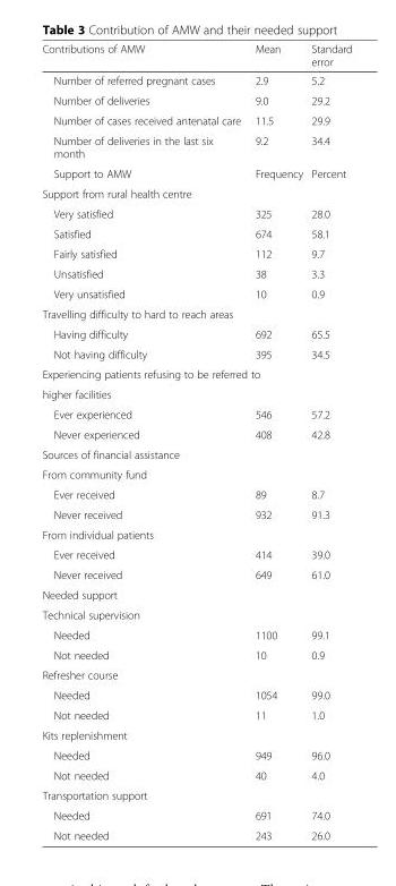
<table><thead><tr><td>Contributions of AMW</td><td>Mean</td><td>Standard error</td></tr></thead><tbody><tr><td>Number of referred pregnant cases</td><td>2.9</td><td>5.2</td></tr><tr><td>Number of deliveries</td><td>9.0</td><td>29.2</td></tr><tr><td>Number of cases received antenatal care</td><td>11.5</td><td>29.9</td></tr><tr><td>Number of deliveries in the last six month</td><td>9.2</td><td>34.4</td></tr><tr><td>Support to AMW</td><td>Frequency</td><td>Percent</td></tr><tr><td colspan="3">Support from rural health centre</td></tr><tr><td>Very satisfied</td><td>325</td><td>28.0</td></tr><tr><td>Satisfied</td><td>674</td><td>58.1</td></tr><tr><td>Fairly satisfied</td><td>112</td><td>9.7</td></tr><tr><td>Unsatisfied</td><td>38</td><td>3.3</td></tr><tr><td>Very unsatisfied</td><td>10</td><td>0.9</td></tr><tr><td colspan="3">Travelling difficulty to hard to reach areas</td></tr><tr><td>Having difficulty</td><td>692</td><td>65.5</td></tr><tr><td>Not having difficulty</td><td>395</td><td>34.5</td></tr><tr><td colspan="3">Experiencing patients refusing to be referred to</td></tr><tr><td colspan="3">higher facilities</td></tr><tr><td>Ever experienced</td><td>546</td><td>57.2</td></tr><tr><td>Never experienced</td><td>408</td><td>42.8</td></tr><tr><td colspan="3">Sources of financial assistance</td></tr><tr><td colspan="3">From community fund</td></tr><tr><td>Ever received</td><td>89</td><td>8.7</td></tr><tr><td>Never received</td><td>932</td><td>91.3</td></tr><tr><td colspan="3">From individual patients</td></tr><tr><td>Ever received</td><td>414</td><td>39.0</td></tr><tr><td>Never received</td><td>649</td><td>61.0</td></tr><tr><td colspan="3">Needed support</td></tr><tr><td colspan="3">Technical supervision</td></tr><tr><td>Needed</td><td>1100</td><td>99.1</td></tr><tr><td>Not needed</td><td>10</td><td>0.9</td></tr><tr><td colspan="3">Refresher course</td></tr><tr><td>Needed</td><td>1054</td><td>99.0</td></tr><tr><td>Not needed</td><td>11</td><td>1.0</td></tr><tr><td colspan="3">Kits replenishment</td></tr><tr><td>Needed</td><td>949</td><td>96.0</td></tr><tr><td>Not needed</td><td>40</td><td>4.0</td></tr><tr><td colspan="3">Transportation support</td></tr><tr><td>Needed</td><td>691</td><td>74.0</td></tr><tr><td>Not needed</td><td>243</td><td>26.0</td></tr></tbody></table>